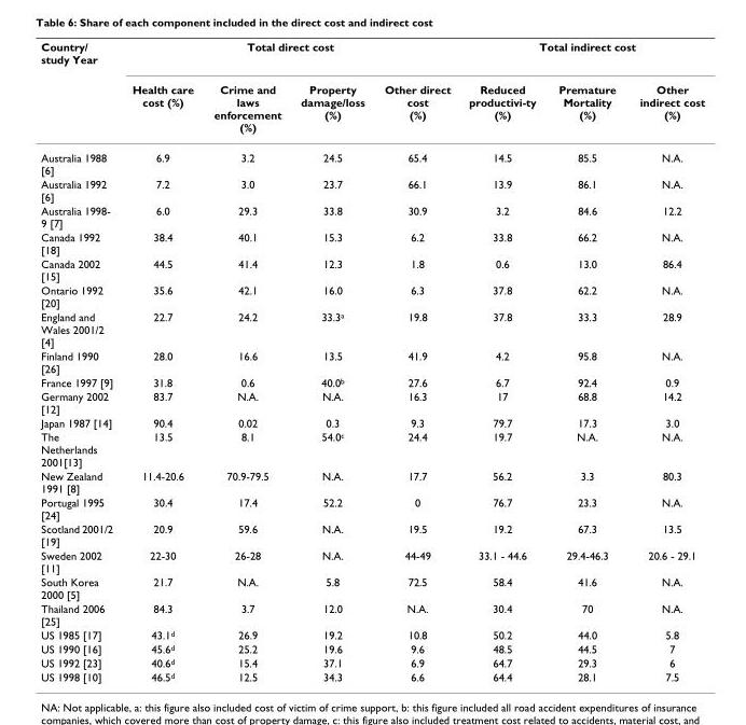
<table><thead><tr><td rowspan="2">Country/ study Year</td><td colspan="4">Total direct cost</td><td colspan="3">Total indirect cost</td></tr><tr><td>Health care cost (%)</td><td>Crime and laws enforcement (%)</td><td>Property damage/loss (%)</td><td>Other direct cost (%)</td><td>Reduced productivi-ty (%)</td><td>Premature Mortality (%)</td><td>Other indirect cost (%)</td></tr></thead><tbody><tr><td>Australia 1988 [6]</td><td>6.9</td><td>3.2</td><td>24.5</td><td>65.4</td><td>14.5</td><td>85.5</td><td>N.A.</td></tr><tr><td>Australia 1992 [6]</td><td>7.2</td><td>3.0</td><td>23.7</td><td>66.1</td><td>13.9</td><td>86.1</td><td>N.A.</td></tr><tr><td>Australia 1998- 9 [7]</td><td>6.0</td><td>29.3</td><td>33.8</td><td>30.9</td><td>3.2</td><td>84.6</td><td>12.2</td></tr><tr><td>Canada 1992 [18]</td><td>38.4</td><td>40.1</td><td>15.3</td><td>6.2</td><td>33.8</td><td>66.2</td><td>N.A.</td></tr><tr><td>Canada 2002 [15]</td><td>44.5</td><td>41.4</td><td>12.3</td><td>1.8</td><td>0.6</td><td>13.0</td><td>86.4</td></tr><tr><td>Ontario 1992 [20]</td><td>35.6</td><td>42.1</td><td>16.0</td><td>6.3</td><td>37.8</td><td>62.2</td><td>N.A.</td></tr><tr><td>England and Wales 2001/2 [4]</td><td>22.7</td><td>24.2</td><td>33.3<sup>a</sup></td><td>19.8</td><td>37.8</td><td>33.3</td><td>28.9</td></tr><tr><td>Finland 1990 [26]</td><td>28.0</td><td>16.6</td><td>13.5</td><td>41.9</td><td>4.2</td><td>95.8</td><td>N.A.</td></tr><tr><td>France 1997 [9]</td><td>31.8</td><td>0.6</td><td>40.0<sup>b</sup></td><td>27.6</td><td>6.7</td><td>92.4</td><td>0.9</td></tr><tr><td>Germany 2002 [12]</td><td>83.7</td><td>N.A.</td><td>N.A.</td><td>16.3</td><td>17</td><td>68.8</td><td>14.2</td></tr><tr><td>Japan 1987 [14]</td><td>90.4</td><td>0.02</td><td>0.3</td><td>9.3</td><td>79.7</td><td>17.3</td><td>3.0</td></tr><tr><td>The Netherlands 2001[13]</td><td>13.5</td><td>8.1</td><td>54.0<sup>c</sup></td><td>24.4</td><td>19.7</td><td>N.A.</td><td>N.A.</td></tr><tr><td>New Zealand 1991 [8]</td><td>11.4-20.6</td><td>70.9-79.5</td><td>N.A.</td><td>17.7</td><td>56.2</td><td>3.3</td><td>80.3</td></tr><tr><td>Portugal 1995 [24]</td><td>30.4</td><td>17.4</td><td>52.2</td><td>0</td><td>76.7</td><td>23.3</td><td>N.A.</td></tr><tr><td>Scotland 2001/2 [19]</td><td>20.9</td><td>59.6</td><td>N.A.</td><td>19.5</td><td>19.2</td><td>67.3</td><td>13.5</td></tr><tr><td>Sweden 2002 [11]</td><td>22-30</td><td>26-28</td><td>N.A.</td><td>44-49</td><td>33.1 - 44.6</td><td>29.4-46.3</td><td>20.6 - 29.1</td></tr><tr><td>South Korea 2000 [5]</td><td>21.7</td><td>N.A.</td><td>5.8</td><td>72.5</td><td>58.4</td><td>41.6</td><td>N.A.</td></tr><tr><td>Thailand 2006 [25]</td><td>84.3</td><td>3.7</td><td>12.0</td><td>N.A.</td><td>30.4</td><td>70</td><td>N.A.</td></tr><tr><td>US 1985 [17]</td><td>43.1<sup>d</sup></td><td>26.9</td><td>19.2</td><td>10.8</td><td>50.2</td><td>44.0</td><td>5.8</td></tr><tr><td>US 1990 [16]</td><td>45.6<sup>d</sup></td><td>25.2</td><td>19.6</td><td>9.6</td><td>48.5</td><td>44.5</td><td>7</td></tr><tr><td>US 1992 [23]</td><td>40.6<sup>d</sup></td><td>15.4</td><td>37.1</td><td>6.9</td><td>64.7</td><td>29.3</td><td>6</td></tr><tr><td>US 1998 [10]</td><td>46.5<sup>d</sup></td><td>12.5</td><td>34.3</td><td>6.6</td><td>64.4</td><td>28.1</td><td>7.5</td></tr></tbody></table>